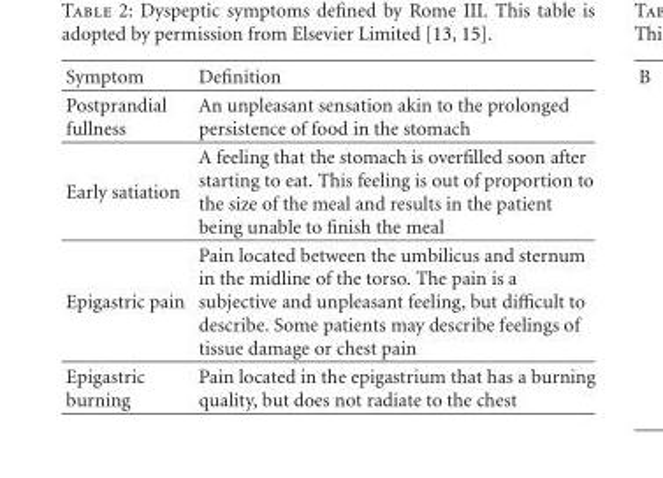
<table><thead><tr><td>Symptom</td><td>Definition</td></tr></thead><tbody><tr><td>Postprandial fullness</td><td>An unpleasant sensation akin to the prolonged persistence of food in the stomach</td></tr><tr><td>Early satiation</td><td>A feeling that the stomach is overfilled soon after starting to eat. This feeling is out of proportion to the size of the meal and results in the patient being unable to finish the meal</td></tr><tr><td>Epigastric pain</td><td>Pain located between the umbilicus and sternum in the midline of the torso. The pain is a subjective and unpleasant feeling, but difficult to describe. Some patients may describe feelings of tissue damage or chest pain</td></tr><tr><td>Epigastric burning</td><td>Pain located in the epigastrium that has a burning quality, but does not radiate to the chest</td></tr></tbody></table>